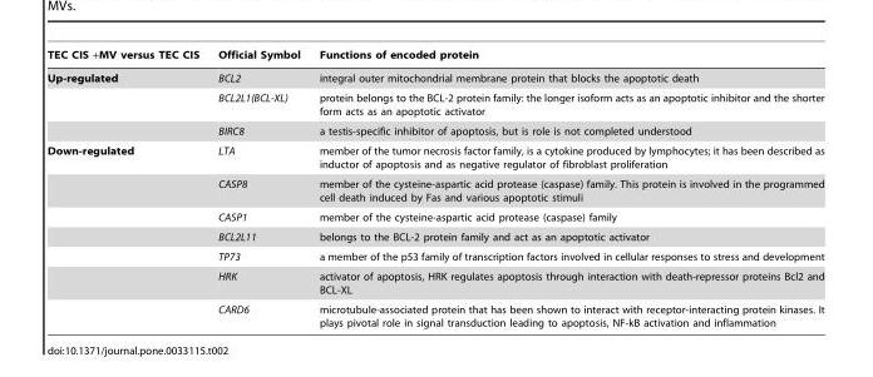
<table><thead><tr><td>TEC CIS +MV versus TEC CIS</td><td>Official Symbol</td><td>Functions of encoded protein</td></tr></thead><tbody><tr><td rowspan="3">Up-regulated</td><td>BCL2</td><td>integral outer mitochondrial membrane protein that blocks the apoptotic death</td></tr><tr><td>BCL2L1(BCL-XL)</td><td>protein belongs to the BCL-2 protein family: the longer isoform acts as an apoptotic inhibitor and the shorter form acts as an apoptotic activator</td></tr><tr><td>BIRC8</td><td>a testis-specific inhibitor of apoptosis, but is role is not completed understood</td></tr><tr><td rowspan="7">Down-regulated</td><td>LTA</td><td>member of the tumor necrosis factor family, is a cytokine produced by lymphocytes; it has been described as inductor of apoptosis and as negative regulator of fibroblast proliferation</td></tr><tr><td>CASP8</td><td>member of the cysteine-aspartic acid protease (caspase) family. This protein is involved in the programmed cell death induced by Fas and various apoptotic stimuli</td></tr><tr><td>CASP1</td><td>member of the cysteine-aspartic acid protease (caspase) family</td></tr><tr><td>BCL2L11</td><td>belongs to the BCL-2 protein family and act as an apoptotic activator</td></tr><tr><td>TP73</td><td>a member of the p53 family of transcription factors involved in cellular responses to stress and development</td></tr><tr><td>HRK</td><td>activator of apoptosis, HRK regulates apoptosis through interaction with death-repressor proteins Bcl2 and BCL-XL</td></tr><tr><td>CARD6</td><td>microtubule-associated protein that has been shown to interact with receptor-interacting protein kinases. It plays pivotal role in signal transduction leading to apoptosis, NF-kB activation and inflammation</td></tr></tbody></table>